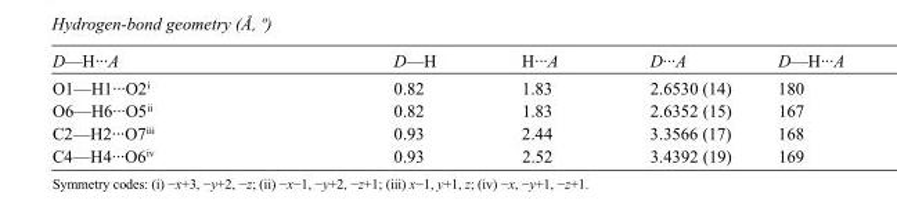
<table><tbody><tr><td>D—H···A</td><td>D—H</td><td>H···A</td><td>D···A</td><td>D—H···A</td></tr><tr><td>O1—H1···O2<sup>i</sup></td><td>0.82</td><td>1.83</td><td>2.6530 (14)</td><td>180</td></tr><tr><td>O6—H6···O5<sup>ii</sup></td><td>0.82</td><td>1.83</td><td>2.6352 (15)</td><td>167</td></tr><tr><td>C2—H2···O7<sup>iii</sup></td><td>0.93</td><td>2.44</td><td>3.3566 (17)</td><td>168</td></tr><tr><td>C4—H4···O6<sup>iv</sup></td><td>0.93</td><td>2.52</td><td>3.4392 (19)</td><td>169</td></tr></tbody></table>